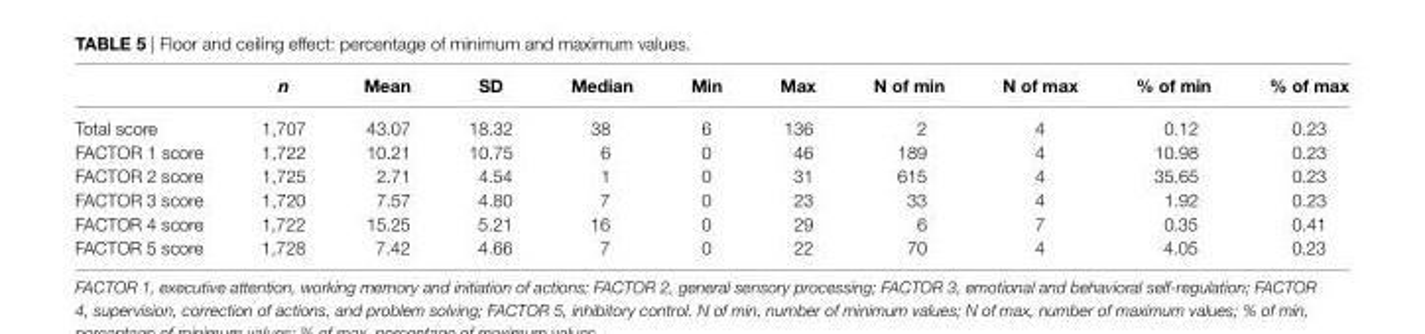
<table><thead><tr><td></td><td>n</td><td>Mean</td><td>sd</td><td>Median</td><td>Min</td><td>Max</td><td>N of min</td><td>N of max</td><td>% of min</td><td>% of max</td></tr></thead><tbody><tr><td>Total score</td><td>1,707</td><td>43.07</td><td>18.32</td><td>38</td><td>6</td><td>136</td><td>2</td><td>4</td><td>0.12</td><td>0.23</td></tr><tr><td>FACTOR 1 score</td><td>1,722</td><td>10.21</td><td>10.75</td><td>6</td><td>0</td><td>46</td><td>189</td><td>4</td><td>10.98</td><td>0.23</td></tr><tr><td>FACTOR 2 score</td><td>1,725</td><td>2.71</td><td>4.54</td><td>1</td><td>0</td><td>31</td><td>615</td><td>4</td><td>35.65</td><td>0.23</td></tr><tr><td>FACTOR 3 score</td><td>1,720</td><td>7.57</td><td>4.80</td><td>7</td><td>0</td><td>23</td><td>33</td><td>4</td><td>1.92</td><td>0.23</td></tr><tr><td>FACTOR 4 score</td><td>1,722</td><td>15.25</td><td>5.21</td><td>16</td><td>0</td><td>29</td><td>6</td><td>7</td><td>0.35</td><td>0.41</td></tr><tr><td>FACTOR 5 score</td><td>1,728</td><td>7.42</td><td>4.66</td><td>7</td><td>0</td><td>22</td><td>70</td><td>4</td><td>4.05</td><td>0.23</td></tr></tbody></table>